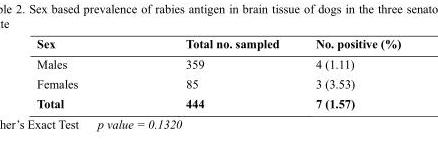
<table><thead><tr><td>Sex</td><td>Total no. sampled</td><td>No. positive (%)</td></tr></thead><tbody><tr><td>Males</td><td>359</td><td>4 (1.11)</td></tr><tr><td>Females</td><td>85</td><td>3 (3.53)</td></tr><tr><td>Total</td><td>444</td><td>7 (1.57)</td></tr></tbody></table>